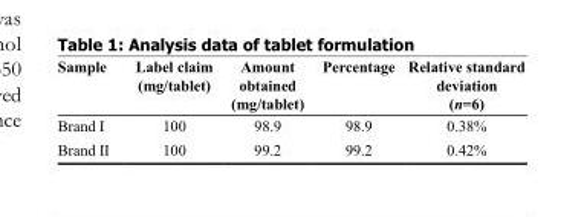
<table><thead><tr><td>Sample</td><td>Label claim (mg/tablet)</td><td>Amount obtained (mg/tablet)</td><td>Percentage</td><td>Relative standard deviation (n=6)</td></tr></thead><tbody><tr><td>Brand I</td><td>100</td><td>98.9</td><td>98.9</td><td>0.38%</td></tr><tr><td>Brand II</td><td>100</td><td>99.2</td><td>99.2</td><td>0.42%</td></tr></tbody></table>